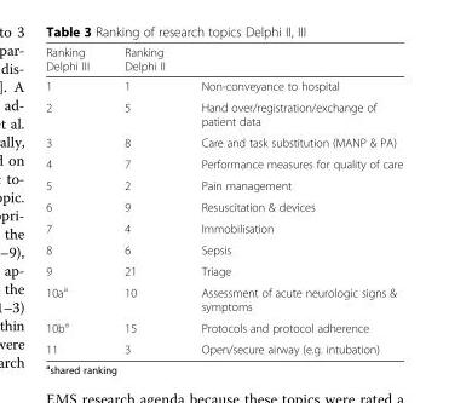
<table><thead><tr><td>Ranking Delphi III</td><td>Ranking Delphi II</td><td></td></tr></thead><tbody><tr><td>1</td><td>1</td><td>Non-conveyance to hospital</td></tr><tr><td>2</td><td>5</td><td>Hand over/registration/exchange of patient data</td></tr><tr><td>3</td><td>8</td><td>Care and task substitution (MANP &amp; PA)</td></tr><tr><td>4</td><td>7</td><td>Performance measures for quality of care</td></tr><tr><td>5</td><td>2</td><td>Pain management</td></tr><tr><td>6</td><td>9</td><td>Resuscitation &amp; devices</td></tr><tr><td>7</td><td>4</td><td>Immobilisation</td></tr><tr><td>8</td><td>6</td><td>Sepsis</td></tr><tr><td>9</td><td>21</td><td>Triage</td></tr><tr><td>10a<sup>a</sup></td><td>10</td><td>Assessment of acute neurologic signs &amp; symptoms</td></tr><tr><td>10b<sup>a</sup></td><td>15</td><td>Protocols and protocol adherence</td></tr><tr><td>11</td><td>3</td><td>Open/secure airway (e.g. intubation)</td></tr></tbody></table>